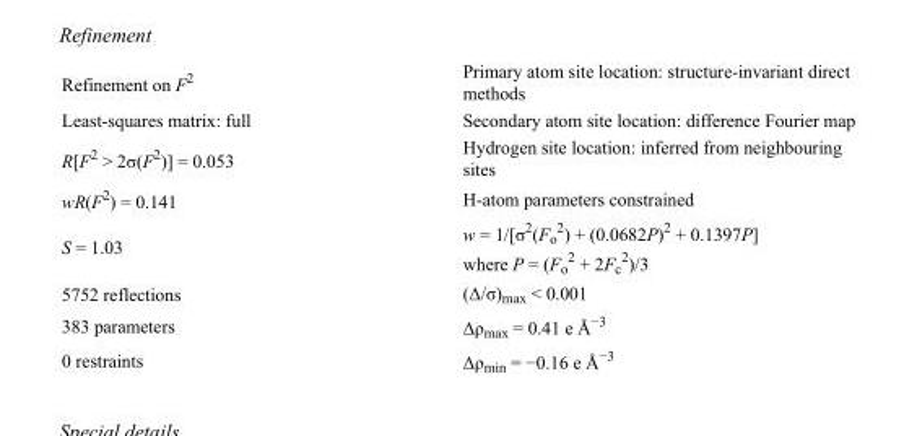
<table><tbody><tr><td>Refinement on F<sup>2</sup></td><td>Primary atom site location: structure-invariant direct methods</td></tr><tr><td>Least-squares matrix: full</td><td>Secondary atom site location: difference Fourier map</td></tr><tr><td>R[F<sup>2</sup> &gt; 2σ(F<sup>2</sup>)] = 0.053</td><td>Hydrogen site location: inferred from neighbouring sites</td></tr><tr><td>wR(F<sup>2</sup>) = 0.141</td><td>H-atom parameters constrained</td></tr><tr><td>S = 1.03</td><td>w = 1/[σ<sup>2</sup>(F<sub>o</sub> <sup>2</sup>) + (0.0682P)<sup>2</sup> + 0.1397P] where P = (F<sub>o</sub> <sup>2</sup> + 2F<sub>c</sub> <sup>2</sup>)/3</td></tr><tr><td>5752 reflections</td><td>(Δ/σ)<sub>max</sub> &lt; 0.001</td></tr><tr><td>383 parameters</td><td>Δρ<sub>max</sub> = 0.41 e Å<sup>−3</sup></td></tr><tr><td>0 restraints</td><td>Δρ<sub>min</sub> = −0.16 e Å<sup>−3</sup></td></tr></tbody></table>